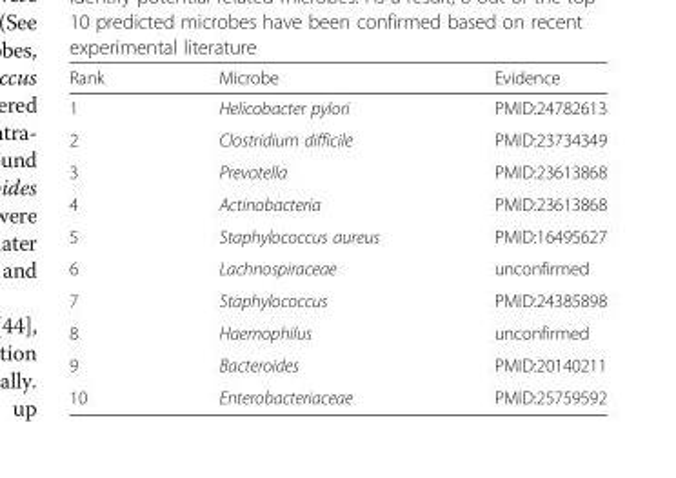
<table><thead><tr><td>Rank</td><td>Microbe</td><td>Evidence</td></tr></thead><tbody><tr><td>1</td><td>Helicobacter pylori</td><td>PMID:24782613</td></tr><tr><td>2</td><td>Clostridium difficile</td><td>PMID:23734349</td></tr><tr><td>3</td><td>Prevotella</td><td>PMID:23613868</td></tr><tr><td>4</td><td>Actinobacteria</td><td>PMID:23613868</td></tr><tr><td>5</td><td>Staphylococcus aureus</td><td>PMID:16495627</td></tr><tr><td>6</td><td>Lachnospiraceae</td><td>unconfirmed</td></tr><tr><td>7</td><td>Staphylococcus</td><td>PMID:24385898</td></tr><tr><td>8</td><td>Haemophilus</td><td>unconfirmed</td></tr><tr><td>9</td><td>Bacteroides</td><td>PMID:20140211</td></tr><tr><td>10</td><td>Enterobacteriaceae</td><td>PMID:25759592</td></tr></tbody></table>